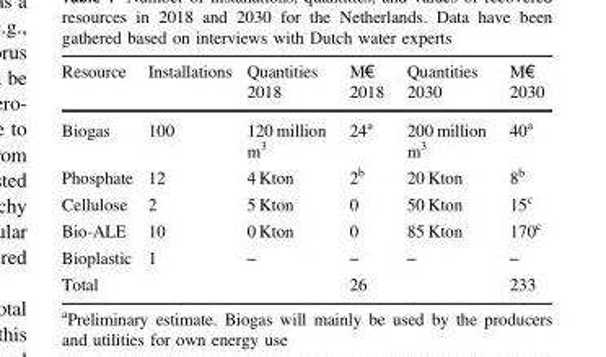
<table><thead><tr><td>Resource</td><td>Installations</td><td>Quantities 2018</td><td>M€ 2018</td><td>Quantities 2030</td><td>M€ 2030</td></tr></thead><tbody><tr><td>Biogas</td><td>100</td><td>120 million m<sup>3</sup></td><td>24<sup>a</sup></td><td>200 million m<sup>3</sup></td><td>40<sup>a</sup></td></tr><tr><td>Phosphate</td><td>12</td><td>4 Kton</td><td>2<sup>b</sup></td><td>20 Kton</td><td>8<sup>b</sup></td></tr><tr><td>Cellulose</td><td>2</td><td>5 Kton</td><td>0</td><td>50 Kton</td><td>15<sup>c</sup></td></tr><tr><td>Bio-ALE</td><td>10</td><td>0 Kton</td><td>0</td><td>85 Kton</td><td>170<sup>c</sup></td></tr><tr><td>Bioplastic</td><td>1</td><td>–</td><td>–</td><td>–</td><td>–</td></tr><tr><td>Total</td><td></td><td></td><td>26</td><td></td><td>233</td></tr></tbody></table>